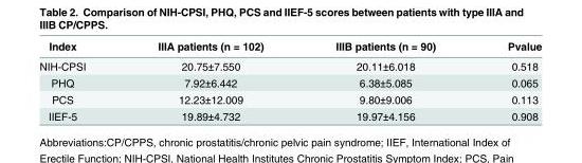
<table><thead><tr><td>Index</td><td>IIIA patients (n = 102)</td><td>IIIB patients (n = 90)</td><td>Pvalue</td></tr></thead><tbody><tr><td>NIH-CPSI</td><td>20.75±7.550</td><td>20.11±6.018</td><td>0.518</td></tr><tr><td>PHQ</td><td>7.92±6.442</td><td>6.38±5.085</td><td>0.065</td></tr><tr><td>PCS</td><td>12.23±12.009</td><td>9.80±9.006</td><td>0.113</td></tr><tr><td>IIEF-5</td><td>19.89±4.732</td><td>19.97±4.156</td><td>0.908</td></tr></tbody></table>